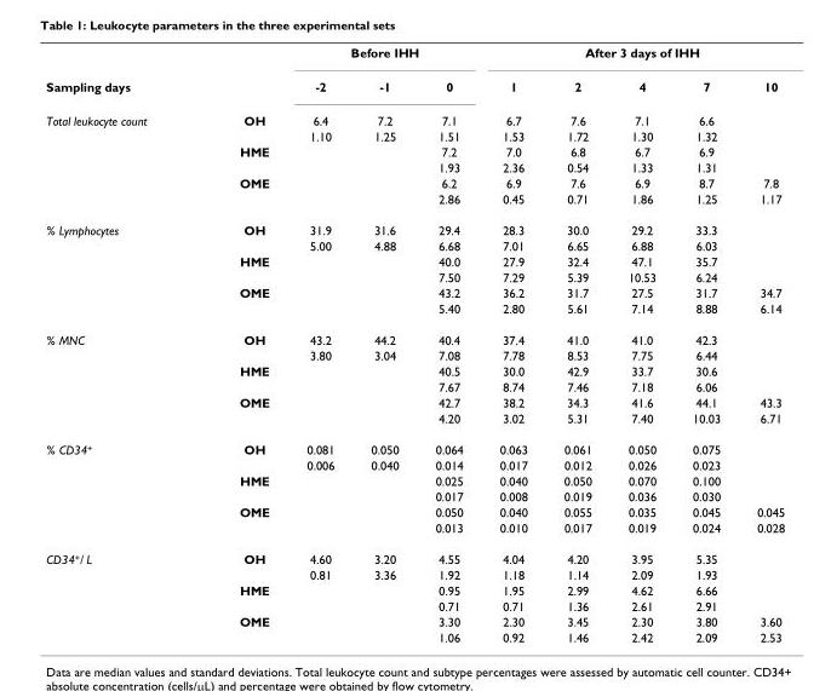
<table><thead><tr><td rowspan="2">Sampling days</td><td rowspan="2"></td><td colspan="3">Before IHH</td><td colspan="5">After 3 days of IHH</td></tr><tr><td>-2</td><td>-1</td><td>0</td><td>1</td><td>2</td><td>4</td><td>7</td><td>10</td></tr></thead><tbody><tr><td rowspan="6">Total leukocyte count</td><td>OH</td><td>6.4</td><td>7.2</td><td>7.1</td><td>6.7</td><td>7.6</td><td>7.1</td><td>6.6</td><td></td></tr><tr><td></td><td>1.10</td><td>1.25</td><td>1.51</td><td>1.53</td><td>1.72</td><td>1.30</td><td>1.32</td><td></td></tr><tr><td>HME</td><td></td><td></td><td>7.2</td><td>7.0</td><td>6.8</td><td>6.7</td><td>6.9</td><td></td></tr><tr><td></td><td></td><td></td><td>1.93</td><td>2.36</td><td>0.54</td><td>1.33</td><td>1.31</td><td></td></tr><tr><td>OME</td><td></td><td></td><td>6.2</td><td>6.9</td><td>7.6</td><td>6.9</td><td>8.7</td><td>7.8</td></tr><tr><td></td><td></td><td></td><td>2.86</td><td>0.45</td><td>0.71</td><td>1.86</td><td>1.25</td><td>1.17</td></tr><tr><td rowspan="6">% Lymphocytes</td><td>OH</td><td>31.9</td><td>31.6</td><td>29.4</td><td>28.3</td><td>30.0</td><td>29.2</td><td>33.3</td><td></td></tr><tr><td></td><td>5.00</td><td>4.88</td><td>6.68</td><td>7.01</td><td>6.65</td><td>6.88</td><td>6.03</td><td></td></tr><tr><td>HME</td><td></td><td></td><td>40.0</td><td>27.9</td><td>32.4</td><td>47.1</td><td>35.7</td><td></td></tr><tr><td></td><td></td><td></td><td>7.50</td><td>7.29</td><td>5.39</td><td>10.53</td><td>6.24</td><td></td></tr><tr><td>OME</td><td></td><td></td><td>43.2</td><td>36.2</td><td>31.7</td><td>27.5</td><td>31.7</td><td>34.7</td></tr><tr><td></td><td></td><td></td><td>5.40</td><td>2.80</td><td>5.61</td><td>7.14</td><td>8.88</td><td>6.14</td></tr><tr><td rowspan="6">% MNC</td><td>OH</td><td>43.2</td><td>44.2</td><td>40.4</td><td>37.4</td><td>41.0</td><td>41.0</td><td>42.3</td><td></td></tr><tr><td></td><td>3.80</td><td>3.04</td><td>7.08</td><td>7.78</td><td>8.53</td><td>7.75</td><td>6.44</td><td></td></tr><tr><td>HME</td><td></td><td></td><td>40.5</td><td>30.0</td><td>42.9</td><td>33.7</td><td>30.6</td><td></td></tr><tr><td></td><td></td><td></td><td>7.67</td><td>8.74</td><td>7.46</td><td>7.18</td><td>6.06</td><td></td></tr><tr><td>OME</td><td></td><td></td><td>42.7</td><td>38.2</td><td>34.3</td><td>41.6</td><td>44.1</td><td>43.3</td></tr><tr><td></td><td></td><td></td><td>4.20</td><td>3.02</td><td>5.31</td><td>7.40</td><td>10.03</td><td>6.71</td></tr><tr><td rowspan="6">% CD34<sup>+</sup></td><td>OH</td><td>0.081</td><td>0.050</td><td>0.064</td><td>0.063</td><td>0.061</td><td>0.050</td><td>0.075</td><td></td></tr><tr><td></td><td>0.006</td><td>0.040</td><td>0.014</td><td>0.017</td><td>0.012</td><td>0.026</td><td>0.023</td><td></td></tr><tr><td>HME</td><td></td><td></td><td>0.025</td><td>0.040</td><td>0.050</td><td>0.070</td><td>0.100</td><td></td></tr><tr><td></td><td></td><td></td><td>0.017</td><td>0.008</td><td>0.019</td><td>0.036</td><td>0.030</td><td></td></tr><tr><td>OME</td><td></td><td></td><td>0.050</td><td>0.040</td><td>0.055</td><td>0.035</td><td>0.045</td><td>0.045</td></tr><tr><td></td><td></td><td></td><td>0.013</td><td>0.010</td><td>0.017</td><td>0.019</td><td>0.024</td><td>0.028</td></tr><tr><td rowspan="6">CD34+/ L</td><td>OH</td><td>4.60</td><td>3.20</td><td>4.55</td><td>4.04</td><td>4.20</td><td>3.95</td><td>5.35</td><td></td></tr><tr><td></td><td>0.81</td><td>3.36</td><td>1.92</td><td>1.18</td><td>1.14</td><td>2.09</td><td>1.93</td><td></td></tr><tr><td>HME</td><td></td><td></td><td>0.95</td><td>1.95</td><td>2.99</td><td>4.62</td><td>6.66</td><td></td></tr><tr><td></td><td></td><td></td><td>0.71</td><td>0.71</td><td>1.36</td><td>2.61</td><td>2.91</td><td></td></tr><tr><td>OME</td><td></td><td></td><td>3.30</td><td>2.30</td><td>3.45</td><td>2.30</td><td>3.80</td><td>3.60</td></tr><tr><td></td><td></td><td></td><td>1.06</td><td>0.92</td><td>1.46</td><td>2.42</td><td>2.09</td><td>2.53</td></tr></tbody></table>